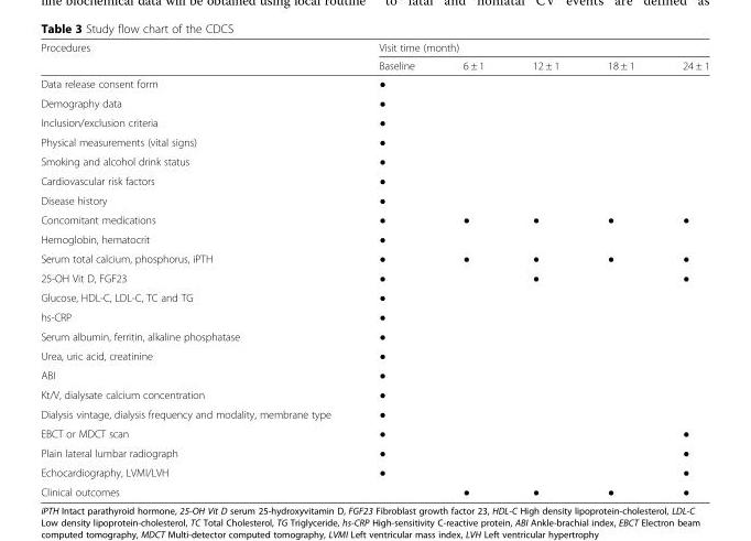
<table><thead><tr><td rowspan="2">Procedures</td><td colspan="5">Visit time (month)</td></tr><tr><td>Baseline</td><td>6 ± 1</td><td>12 ± 1</td><td>18 ± 1</td><td>24 ± 1</td></tr></thead><tbody><tr><td>Data release consent form</td><td>●</td><td></td><td></td><td></td><td></td></tr><tr><td>Demography data</td><td>●</td><td></td><td></td><td></td><td></td></tr><tr><td>Inclusion/exclusion criteria</td><td>●</td><td></td><td></td><td></td><td></td></tr><tr><td>Physical measurements (vital signs)</td><td>●</td><td></td><td></td><td></td><td></td></tr><tr><td>Smoking and alcohol drink status</td><td>●</td><td></td><td></td><td></td><td></td></tr><tr><td>Cardiovascular risk factors</td><td>●</td><td></td><td></td><td></td><td></td></tr><tr><td>Disease history</td><td>●</td><td></td><td></td><td></td><td></td></tr><tr><td>Concomitant medications</td><td>●</td><td>●</td><td>●</td><td>●</td><td>●</td></tr><tr><td>Hemoglobin, hematocrit</td><td>●</td><td></td><td></td><td></td><td></td></tr><tr><td>Serum total calcium, phosphorus, iPTH</td><td>●</td><td>●</td><td>●</td><td>●</td><td>●</td></tr><tr><td>25-OH Vit D, FGF23</td><td>●</td><td></td><td>●</td><td></td><td>●</td></tr><tr><td>Glucose, HDL-C, LDL-C, TC and TG</td><td>●</td><td></td><td></td><td></td><td></td></tr><tr><td>hs-CRP</td><td>●</td><td></td><td></td><td></td><td></td></tr><tr><td>Serum albumin, ferritin, alkaline phosphatase</td><td>●</td><td></td><td></td><td></td><td></td></tr><tr><td>Urea, uric acid, creatinine</td><td>●</td><td></td><td></td><td></td><td></td></tr><tr><td>ABI</td><td>●</td><td></td><td></td><td></td><td></td></tr><tr><td>Kt/V, dialysate calcium concentration</td><td>●</td><td></td><td></td><td></td><td></td></tr><tr><td>Dialysis vintage, dialysis frequency and modality, membrane type</td><td>●</td><td></td><td></td><td></td><td></td></tr><tr><td>EBCT or MDCT scan</td><td>●</td><td></td><td></td><td></td><td>●</td></tr><tr><td>Plain lateral lumbar radiograph</td><td>●</td><td></td><td></td><td></td><td>●</td></tr><tr><td>Echocardiography, LVMI/LVH</td><td>●</td><td></td><td></td><td></td><td>●</td></tr><tr><td>Clinical outcomes</td><td></td><td>●</td><td>●</td><td>●</td><td>●</td></tr></tbody></table>